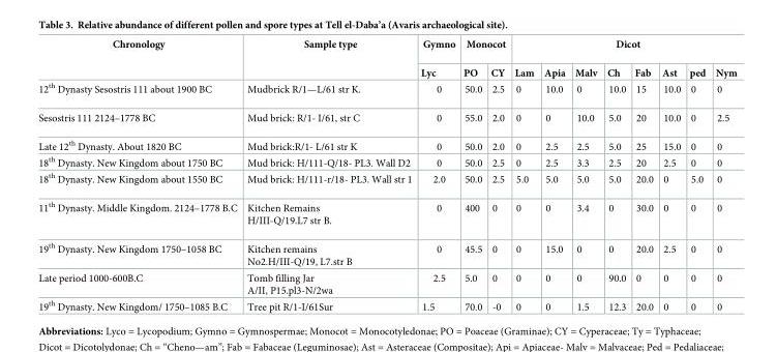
<table><thead><tr><td rowspan="2">Chronology</td><td rowspan="2">Sample type</td><td rowspan="2">Gymno Lyc</td><td colspan="2">Monocot</td><td colspan="8">Dicot</td></tr><tr><td>PO</td><td>CY</td><td>Lam</td><td>Apia</td><td>Malv</td><td>Ch</td><td>Fab</td><td>Ast</td><td>ped</td><td>Nym</td></tr></thead><tbody><tr><td>12<sup>th</sup> Dynasty Sesostris 111 about 1900 BC</td><td>Mudbrick R/1—L/61 str K.</td><td>0</td><td>50.0</td><td>2.5</td><td>0</td><td>10.0</td><td>0</td><td>10.0</td><td>15</td><td>10.0</td><td>0</td><td>0</td></tr><tr><td>Sesostris 111 2124–1778 BC</td><td>Mud brick: R/1- I/61, str C</td><td>0</td><td>55.0</td><td>2.0</td><td>0</td><td>0</td><td>10.0</td><td>5.0</td><td>20</td><td>10.0</td><td>0</td><td>2.5</td></tr><tr><td>Late 12<sup>th</sup> Dynasty. About 1820 BC</td><td>Mud brick:R/1- L/61 str K</td><td>0</td><td>50.0</td><td>2.0</td><td>0</td><td>2.5</td><td>2.5</td><td>5.0</td><td>25</td><td>15.0</td><td>0</td><td>0</td></tr><tr><td>18<sup>th</sup> Dynasty. New Kingdom about 1750 BC</td><td>Mud brick: H/111-Q/18- PL3. Wall D2</td><td>0</td><td>50.0</td><td>2.5</td><td>0</td><td>2.5</td><td>3.3</td><td>2.5</td><td>20</td><td>2.5</td><td>0</td><td>0</td></tr><tr><td>18<sup>th</sup> Dynasty. New Kingdom about 1550 BC</td><td>Mud brick: H/111-r/18- PL3. Wall str 1</td><td>2.0</td><td>50.0</td><td>2.5</td><td>5.0</td><td>5.0</td><td>5.0</td><td>5.0</td><td>20.0</td><td>0</td><td>5.0</td><td>0</td></tr><tr><td>11<sup>th</sup> Dynasty. Middle Kingdom. 2124–1778 B.C</td><td>Kitchen Remains H/III-Q/19.L7 str B.</td><td>0</td><td>400</td><td>0</td><td>0</td><td>0</td><td>3.4</td><td>0</td><td>30.0</td><td>0</td><td>0</td><td>0</td></tr><tr><td>19<sup>th</sup> Dynasty. New Kingdom 1750–1058 BC</td><td>Kitchen remains No2.H/III-Q/19, L7.str B</td><td>0</td><td>45.5</td><td>0</td><td>0</td><td>15.0</td><td>0</td><td>0</td><td>20.0</td><td>2.5</td><td>0</td><td>0</td></tr><tr><td>Late period 1000-600B.C</td><td>Tomb filling Jar A/II, P15.pl3-N/2wa</td><td>2.5</td><td>5.0</td><td>0</td><td>0</td><td>0</td><td>0</td><td>90.0</td><td>0</td><td>0</td><td>0</td><td>0</td></tr><tr><td>19<sup>th</sup> Dynasty. New Kingdom/ 1750–1085 B.C</td><td>Tree pit R/1-I/61Sur</td><td>1.5</td><td>70.0</td><td>-0</td><td>0</td><td>0</td><td>1.5</td><td>12.3</td><td>20.0</td><td>0</td><td>0</td><td>0</td></tr></tbody></table>